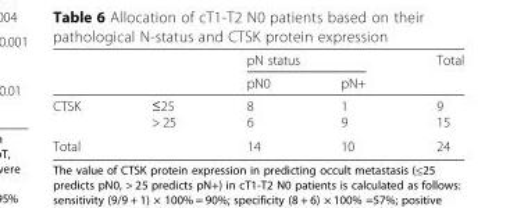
<table><thead><tr><td rowspan="2"></td><td rowspan="2"></td><td colspan="2">pN status</td><td rowspan="2">Total</td></tr><tr><td>pN0</td><td>pN+</td></tr></thead><tbody><tr><td>CTSK</td><td>≤25 &gt; 25</td><td>8 6</td><td>1 9</td><td>9 15</td></tr><tr><td colspan="2">Total</td><td>14</td><td>10</td><td>24</td></tr></tbody></table>